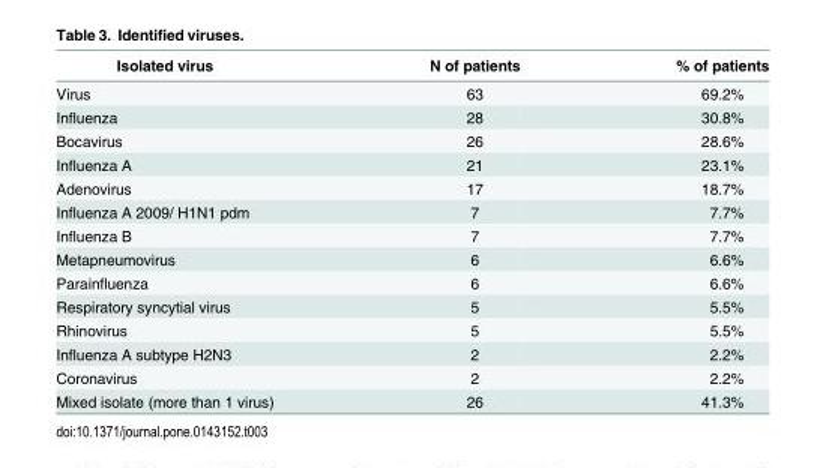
<table><thead><tr><td>Isolated virus</td><td>N of patients</td><td>% of patients</td></tr></thead><tbody><tr><td>Virus</td><td>63</td><td>69.2%</td></tr><tr><td>Influenza</td><td>28</td><td>30.8%</td></tr><tr><td>Bocavirus</td><td>26</td><td>28.6%</td></tr><tr><td>Influenza A</td><td>21</td><td>23.1%</td></tr><tr><td>Adenovirus</td><td>17</td><td>18.7%</td></tr><tr><td>Influenza A 2009/ H1N1 pdm</td><td>7</td><td>7.7%</td></tr><tr><td>Influenza B</td><td>7</td><td>7.7%</td></tr><tr><td>Metapneumovirus</td><td>6</td><td>6.6%</td></tr><tr><td>Parainfluenza</td><td>6</td><td>6.6%</td></tr><tr><td>Respiratory syncytial virus</td><td>5</td><td>5.5%</td></tr><tr><td>Rhinovirus</td><td>5</td><td>5.5%</td></tr><tr><td>Influenza A subtype H2N3</td><td>2</td><td>2.2%</td></tr><tr><td>Coronavirus</td><td>2</td><td>2.2%</td></tr><tr><td>Mixed isolate (more than 1 virus)</td><td>26</td><td>41.3%</td></tr></tbody></table>